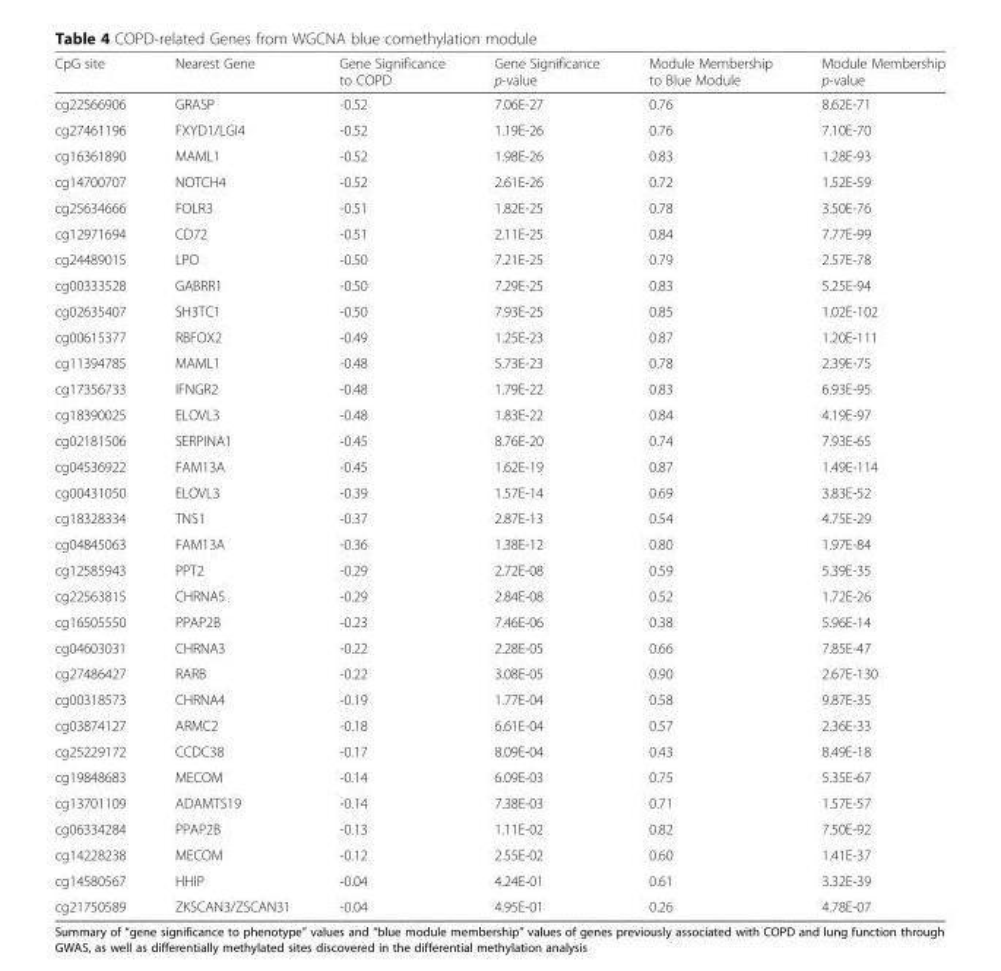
<table><thead><tr><td>CpG site</td><td>Nearest Gene</td><td>Gene Significance to COPD</td><td>Gene Significance p-value</td><td>Module Membership to Blue Module</td><td>Module Membership p-value</td></tr></thead><tbody><tr><td>cg22566906</td><td>GRASP</td><td>-0.52</td><td>7.06E-27</td><td>0.76</td><td>8.62E-71</td></tr><tr><td>cg27461196</td><td>FXYD1/LGI4</td><td>-0.52</td><td>1.19E-26</td><td>0.76</td><td>7.10E-70</td></tr><tr><td>cg16361890</td><td>MAML1</td><td>-0.52</td><td>1.98E-26</td><td>0.83</td><td>1.28E-93</td></tr><tr><td>cg14700707</td><td>NOTCH4</td><td>-0.52</td><td>2.61E-26</td><td>0.72</td><td>1.52E-59</td></tr><tr><td>cg25634666</td><td>FOLR3</td><td>-0.51</td><td>1.82E-25</td><td>0.78</td><td>3.50E-76</td></tr><tr><td>cg12971694</td><td>CD72</td><td>-0.51</td><td>2.11E-25</td><td>0.84</td><td>7.77E-99</td></tr><tr><td>cg24489015</td><td>LPO</td><td>-0.50</td><td>7.21E-25</td><td>0.79</td><td>2.57E-78</td></tr><tr><td>cg00333528</td><td>GABRR1</td><td>-0.50</td><td>7.29E-25</td><td>0.83</td><td>5.25E-94</td></tr><tr><td>cg02635407</td><td>SH3TC1</td><td>-0.50</td><td>7.93E-25</td><td>0.85</td><td>1.02E-102</td></tr><tr><td>cg00615377</td><td>RBFOX2</td><td>-0.49</td><td>1.25E-23</td><td>0.87</td><td>1.20E-111</td></tr><tr><td>cg11394785</td><td>MAML1</td><td>-0.48</td><td>5.73E-23</td><td>0.78</td><td>2.39E-75</td></tr><tr><td>cg17356733</td><td>IFNGR2</td><td>-0.48</td><td>1.79E-22</td><td>0.83</td><td>6.93E-95</td></tr><tr><td>cg18390025</td><td>ELOVL3</td><td>-0.48</td><td>1.83E-22</td><td>0.84</td><td>4.19E-97</td></tr><tr><td>cg02181506</td><td>SERPINA1</td><td>-0.45</td><td>8.76E-20</td><td>0.74</td><td>7.93E-65</td></tr><tr><td>cg04536922</td><td>FAM13A</td><td>-0.45</td><td>1.62E-19</td><td>0.87</td><td>1.49E-114</td></tr><tr><td>cg00431050</td><td>ELOVL3</td><td>-0.39</td><td>1.57E-14</td><td>0.69</td><td>3.83E-52</td></tr><tr><td>cg18328334</td><td>TNS1</td><td>-0.37</td><td>2.87E-13</td><td>0.54</td><td>4.75E-29</td></tr><tr><td>cg04845063</td><td>FAM13A</td><td>-0.36</td><td>1.38E-12</td><td>0.80</td><td>1.97E-84</td></tr><tr><td>cg12585943</td><td>PPT2</td><td>-0.29</td><td>2.72E-08</td><td>0.59</td><td>5.39E-35</td></tr><tr><td>cg22563815</td><td>CHRNA5</td><td>-0.29</td><td>2.84E-08</td><td>0.52</td><td>1.72E-26</td></tr><tr><td>cg16505550</td><td>PPAP2B</td><td>-0.23</td><td>7.46E-06</td><td>0.38</td><td>5.96E-14</td></tr><tr><td>cg04603031</td><td>CHRNA3</td><td>-0.22</td><td>2.28E-05</td><td>0.66</td><td>7.85E-47</td></tr><tr><td>cg27486427</td><td>RARB</td><td>-0.22</td><td>3.08E-05</td><td>0.90</td><td>2.67E-130</td></tr><tr><td>cg00318573</td><td>CHRNA4</td><td>-0.19</td><td>1.77E-04</td><td>0.58</td><td>9.87E-35</td></tr><tr><td>cg03874127</td><td>ARMC2</td><td>-0.18</td><td>6.61E-04</td><td>0.57</td><td>2.36E-33</td></tr><tr><td>cg25229172</td><td>CCDC38</td><td>-0.17</td><td>8.09E-04</td><td>0.43</td><td>8.49E-18</td></tr><tr><td>cg19848683</td><td>MECOM</td><td>-0.14</td><td>6.09E-03</td><td>0.75</td><td>5.35E-67</td></tr><tr><td>cg13701109</td><td>ADAMTS19</td><td>-0.14</td><td>7.38E-03</td><td>0.71</td><td>1.57E-57</td></tr><tr><td>cg06334284</td><td>PPAP2B</td><td>-0.13</td><td>1.11E-02</td><td>0.82</td><td>7.50E-92</td></tr><tr><td>cg14228238</td><td>MECOM</td><td>-0.12</td><td>2.55E-02</td><td>0.60</td><td>1.41E-37</td></tr><tr><td>cg14580567</td><td>HHIP</td><td>-0.04</td><td>4.24E-01</td><td>0.61</td><td>3.32E-39</td></tr><tr><td>cg21750589</td><td>ZKSCAN3/ZSCAN31</td><td>-0.04</td><td>4.95E-01</td><td>0.26</td><td>4.78E-07</td></tr></tbody></table>